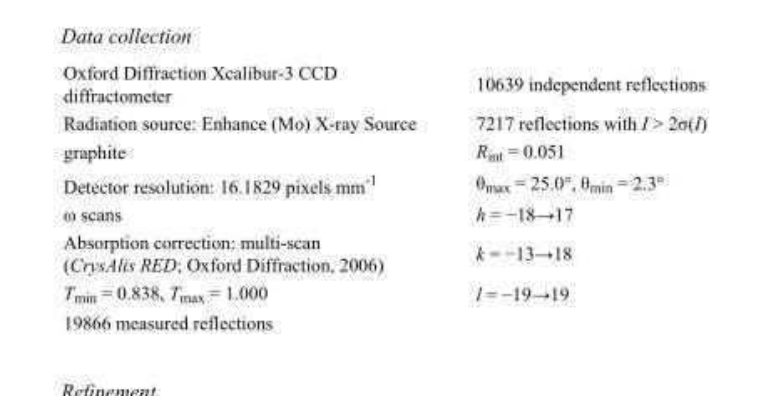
<table><tbody><tr><td>Oxford Diffraction Xcalibur-3 CCD diffractometer</td><td>10639 independent reflections</td></tr><tr><td>Radiation source: Enhance (Mo) X-ray Source</td><td>7217 reflections with I &gt; 2σ(I)</td></tr><tr><td>graphite</td><td>R<sub>int</sub> = 0.051</td></tr><tr><td>Detector resolution: 16.1829 pixels mm<sup>-1</sup></td><td>θ<sub>max</sub> = 25.0°, θ<sub>min</sub> = 2.3°</td></tr><tr><td>ω scans</td><td>h = −18→17</td></tr><tr><td>Absorption correction: multi-scan (CrysAlis RED; Oxford Diffraction, 2006)</td><td>k = −13→18</td></tr><tr><td>T<sub>min</sub> = 0.838, T<sub>max</sub> = 1.000</td><td>l = −19→19</td></tr><tr><td>19866 measured reflections</td><td></td></tr></tbody></table>